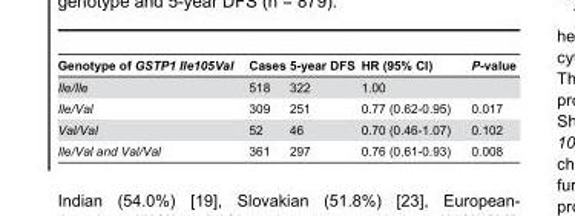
<table><thead><tr><td>Genotype of GSTP1 Ile105Val</td><td>Cases</td><td>5-year DFS</td><td>HR (95% CI)</td><td>P-value</td></tr></thead><tbody><tr><td>Ile/Ile</td><td>518</td><td>322</td><td>1.00</td><td></td></tr><tr><td>Ile/Val</td><td>309</td><td>251</td><td>0.77 (0.62-0.95)</td><td>0.017</td></tr><tr><td>Val/Val</td><td>52</td><td>46</td><td>0.70 (0.46-1.07)</td><td>0.102</td></tr><tr><td>Ile/Val and Val/Val</td><td>361</td><td>297</td><td>0.76 (0.61-0.93)</td><td>0.008</td></tr></tbody></table>